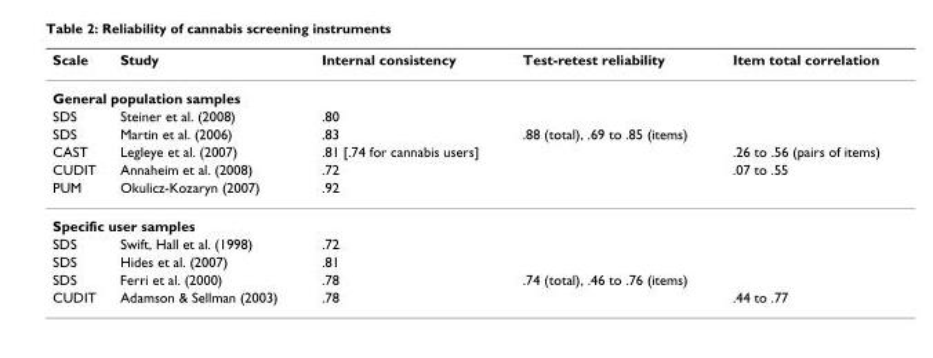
<table><thead><tr><td>Scale</td><td>Study</td><td>Internal consistency</td><td>Test-retest reliability</td><td>Item total correlation</td></tr></thead><tbody><tr><td colspan="5">General population samples</td></tr><tr><td>SDS</td><td>Steiner et al. (2008)</td><td>.80</td><td></td><td></td></tr><tr><td>SDS</td><td>Martin et al. (2006)</td><td>.83</td><td>.88 (total), .69 to .85 (items)</td><td></td></tr><tr><td>CAST</td><td>Legleye et al. (2007)</td><td>.81 [.74 for cannabis users]</td><td></td><td>.26 to .56 (pairs of items)</td></tr><tr><td>CUDIT</td><td>Annaheim et al. (2008)</td><td>.72</td><td></td><td>.07 to .55</td></tr><tr><td>PUM</td><td>Okulicz-Kozaryn (2007)</td><td>.92</td><td></td><td></td></tr><tr><td colspan="5">Specific user samples</td></tr><tr><td>SDS</td><td>Swift, Hall et al. (1998)</td><td>.72</td><td></td><td></td></tr><tr><td>SDS</td><td>Hides et al. (2007)</td><td>.81</td><td></td><td></td></tr><tr><td>SDS</td><td>Ferri et al. (2000)</td><td>.78</td><td>.74 (total), .46 to .76 (items)</td><td></td></tr><tr><td>CUDIT</td><td>Adamson &amp; Sellman (2003)</td><td>.78</td><td></td><td>.44 to .77</td></tr></tbody></table>